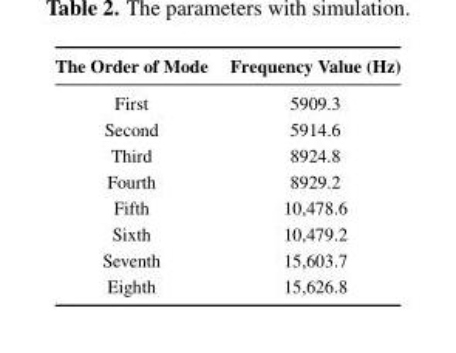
<table><thead><tr><td>The Order of Mode</td><td>Frequency Value (Hz)</td></tr></thead><tbody><tr><td>First</td><td>5909.3</td></tr><tr><td>Second</td><td>5914.6</td></tr><tr><td>Third</td><td>8924.8</td></tr><tr><td>Fourth</td><td>8929.2</td></tr><tr><td>Fifth</td><td>10,478.6</td></tr><tr><td>Sixth</td><td>10,479.2</td></tr><tr><td>Seventh</td><td>15,603.7</td></tr><tr><td>Eighth</td><td>15,626.8</td></tr></tbody></table>